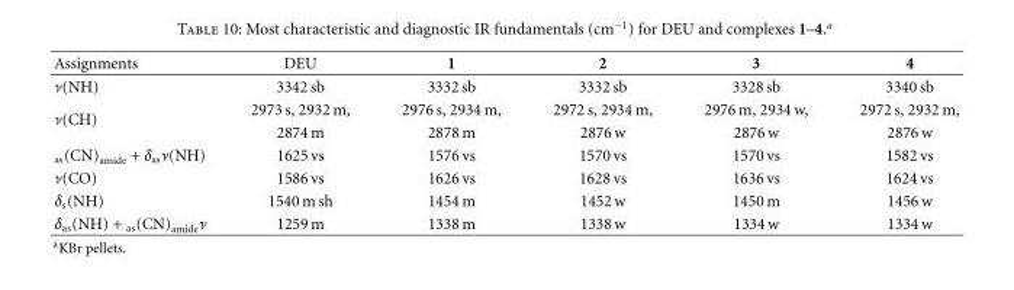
<table><thead><tr><td>Assignments</td><td>DEU</td><td>1</td><td>2</td><td>3</td><td>4</td></tr></thead><tbody><tr><td>ν(NH)</td><td>3342 sb</td><td>3332 sb</td><td>3332 sb</td><td>3328 sb</td><td>3340 sb</td></tr><tr><td rowspan="2">ν(CH)</td><td>2973 s, 2932 m,</td><td>2976 s, 2934 m,</td><td>2972 s, 2934 m,</td><td>2976 m, 2934 w,</td><td>2972 s, 2932 m,</td></tr><tr><td>2874 m</td><td>2878 m</td><td>2876 w</td><td>2876 w</td><td>2876 w</td></tr><tr><td><sub>as</sub>(CN)<sub>amide</sub> + δ<sub>as</sub>ν(NH)</td><td>1625 vs</td><td>1576 vs</td><td>1570 vs</td><td>1570 vs</td><td>1582 vs</td></tr><tr><td>ν(CO)</td><td>1586 vs</td><td>1626 vs</td><td>1628 vs</td><td>1636 vs</td><td>1624 vs</td></tr><tr><td>δ<sub>s</sub>(NH)</td><td>1540 m sh</td><td>1454 m</td><td>1452 w</td><td>1450 m</td><td>1456 w</td></tr><tr><td>δ<sub>as</sub>(NH) + <sub>as</sub>(CN)<sub>amide</sub>ν</td><td>1259 m</td><td>1338 m</td><td>1338 w</td><td>1334 w</td><td>1334 w</td></tr></tbody></table>